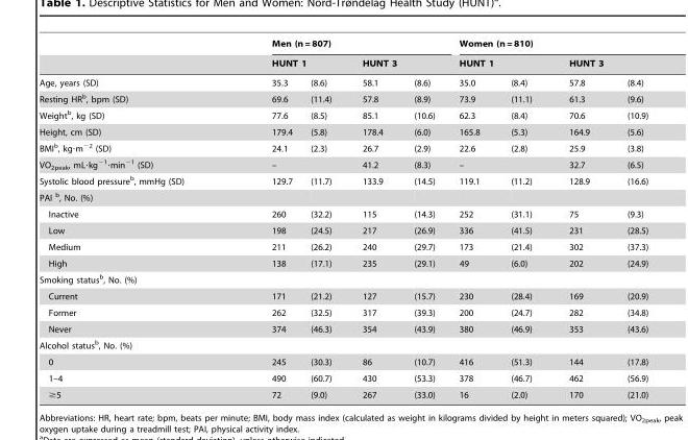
<table><thead><tr><td rowspan="3">Age, years (SD)</td><td colspan="4">Men (n = 807)</td><td colspan="4">Women (n = 810)</td></tr><tr><td colspan="2">HUNT 1</td><td colspan="2">HUNT 3</td><td colspan="2">HUNT 1</td><td colspan="2">HUNT 3</td></tr><tr><td>35.3</td><td>(8.6)</td><td>58.1</td><td>(8.6)</td><td>35.0</td><td>(8.4)</td><td>57.8</td><td>(8.4)</td></tr></thead><tbody><tr><td>Resting HR<sup>b</sup>, bpm (SD)</td><td>69.6</td><td>(11.4)</td><td>57.8</td><td>(8.9)</td><td>73.9</td><td>(11.1)</td><td>61.3</td><td>(9.6)</td></tr><tr><td>Weight<sup>b</sup>, kg (SD)</td><td>77.6</td><td>(8.5)</td><td>85.1</td><td>(10.6)</td><td>62.3</td><td>(8.4)</td><td>70.6</td><td>(10.9)</td></tr><tr><td>Height, cm (SD)</td><td>179.4</td><td>(5.8)</td><td>178.4</td><td>(6.0)</td><td>165.8</td><td>(5.3)</td><td>164.9</td><td>(5.6)</td></tr><tr><td>BMI<sup>b</sup>, kg·m<sup>−2</sup> (SD)</td><td>24.1</td><td>(2.3)</td><td>26.7</td><td>(2.9)</td><td>22.6</td><td>(2.8)</td><td>25.9</td><td>(3.8)</td></tr><tr><td>VO<sub>2peak</sub>, mL·kg<sup>−1</sup>·min<sup>−1</sup> (SD)</td><td colspan="2">–</td><td>41.2</td><td>(8.3)</td><td colspan="2">–</td><td>32.7</td><td>(6.5)</td></tr><tr><td>Systolic blood pressure<sup>b</sup>, mmHg (SD)</td><td>129.7</td><td>(11.7)</td><td>133.9</td><td>(14.5)</td><td>119.1</td><td>(11.2)</td><td>128.9</td><td>(16.6)</td></tr><tr><td colspan="9">PAI b, No. (%)</td></tr><tr><td>Inactive</td><td>260</td><td>(32.2)</td><td>115</td><td>(14.3)</td><td>252</td><td>(31.1)</td><td>75</td><td>(9.3)</td></tr><tr><td>Low</td><td>198</td><td>(24.5)</td><td>217</td><td>(26.9)</td><td>336</td><td>(41.5)</td><td>231</td><td>(28.5)</td></tr><tr><td>Medium</td><td>211</td><td>(26.2)</td><td>240</td><td>(29.7)</td><td>173</td><td>(21.4)</td><td>302</td><td>(37.3)</td></tr><tr><td>High</td><td>138</td><td>(17.1)</td><td>235</td><td>(29.1)</td><td>49</td><td>(6.0)</td><td>202</td><td>(24.9)</td></tr><tr><td colspan="9">Smoking status<sup>b</sup>, No. (%)</td></tr><tr><td>Current</td><td>171</td><td>(21.2)</td><td>127</td><td>(15.7)</td><td>230</td><td>(28.4)</td><td>169</td><td>(20.9)</td></tr><tr><td>Former</td><td>262</td><td>(32.5)</td><td>317</td><td>(39.3)</td><td>200</td><td>(24.7)</td><td>282</td><td>(34.8)</td></tr><tr><td>Never</td><td>374</td><td>(46.3)</td><td>354</td><td>(43.9)</td><td>380</td><td>(46.9)</td><td>353</td><td>(43.6)</td></tr><tr><td colspan="9">Alcohol status<sup>b</sup>, No. (%)</td></tr><tr><td>0</td><td>245</td><td>(30.3)</td><td>86</td><td>(10.7)</td><td>416</td><td>(51.3)</td><td>144</td><td>(17.8)</td></tr><tr><td>1–4</td><td>490</td><td>(60.7)</td><td>430</td><td>(53.3)</td><td>378</td><td>(46.7)</td><td>462</td><td>(56.9)</td></tr><tr><td>≥5</td><td>72</td><td>(9.0)</td><td>267</td><td>(33.0)</td><td>16</td><td>(2.0)</td><td>170</td><td>(21.0)</td></tr></tbody></table>